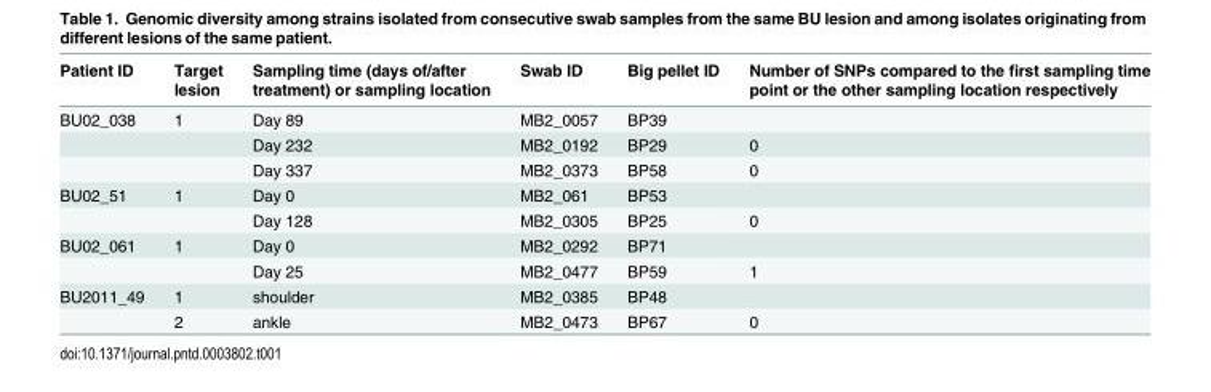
<table><thead><tr><td>Patient ID</td><td>Target lesion</td><td>Sampling time (days of/after treatment) or sampling location</td><td>Swab ID</td><td>Big pellet ID</td><td>Number of SNPs compared to the first sampling time point or the other sampling location respectively</td></tr></thead><tbody><tr><td rowspan="3">BU02_038</td><td>1</td><td>Day 89</td><td>MB2_0057</td><td>BP39</td><td></td></tr><tr><td></td><td>Day 232</td><td>MB2_0192</td><td>BP29</td><td>0</td></tr><tr><td></td><td>Day 337</td><td>MB2_0373</td><td>BP58</td><td>0</td></tr><tr><td rowspan="2">BU02_51</td><td>1</td><td>Day 0</td><td>MB2_061</td><td>BP53</td><td></td></tr><tr><td></td><td>Day 128</td><td>MB2_0305</td><td>BP25</td><td>0</td></tr><tr><td rowspan="2">BU02_061</td><td>1</td><td>Day 0</td><td>MB2_0292</td><td>BP71</td><td></td></tr><tr><td></td><td>Day 25</td><td>MB2_0477</td><td>BP59</td><td>1</td></tr><tr><td rowspan="2">BU2011_49</td><td>1</td><td>shoulder</td><td>MB2_0385</td><td>BP48</td><td></td></tr><tr><td>2</td><td>ankle</td><td>MB2_0473</td><td>BP67</td><td>0</td></tr></tbody></table>